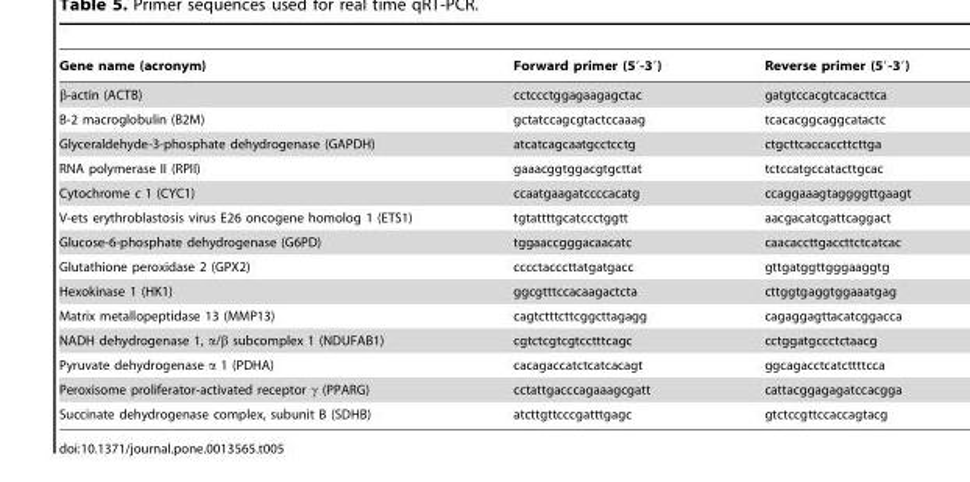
<table><thead><tr><td>Gene name (acronym)</td><td>Forward primer (5′-3′)</td><td>Reverse primer (5′-3′)</td></tr></thead><tbody><tr><td>β-actin (ACTB)</td><td>cctccctggagaagagctac</td><td>gatgtccacgtcacacttca</td></tr><tr><td>B-2 macroglobulin (B2M)</td><td>gctatccagcgtactccaaag</td><td>tcacacggcaggcatactc</td></tr><tr><td>Glyceraldehyde-3-phosphate dehydrogenase (GAPDH)</td><td>atcatcagcaatgcctcctg</td><td>ctgcttcaccaccttcttga</td></tr><tr><td>RNA polymerase II (RPII)</td><td>gaaacggtggacgtgcttat</td><td>tctccatgccatacttgcac</td></tr><tr><td>Cytochrome c 1 (CYC1)</td><td>ccaatgaagatccccacatg</td><td>ccaggaaagtaggggttgaagt</td></tr><tr><td>V-ets erythroblastosis virus E26 oncogene homolog 1 (ETS1)</td><td>tgtattttgcatccctggtt</td><td>aacgacatcgattcaggact</td></tr><tr><td>Glucose-6-phosphate dehydrogenase (G6PD)</td><td>tggaaccgggacaacatc</td><td>caacaccttgaccttctcatcac</td></tr><tr><td>Glutathione peroxidase 2 (GPX2)</td><td>cccctacccttatgatgacc</td><td>gttgatggttgggaaggtg</td></tr><tr><td>Hexokinase 1 (HK1)</td><td>ggcgtttccacaagactcta</td><td>cttggtgaggtggaaatgag</td></tr><tr><td>Matrix metallopeptidase 13 (MMP13)</td><td>cagtctttcttcggcttagagg</td><td>cagaggagttacatcggacca</td></tr><tr><td>NADH dehydrogenase 1, α/β subcomplex 1 (NDUFAB1)</td><td>cgtctcgtcgtcctttcagc</td><td>cctggatgccctctaacg</td></tr><tr><td>Pyruvate dehydrogenase α 1 (PDHA)</td><td>cacagaccatctcatcacagt</td><td>ggcagacctcatcttttcca</td></tr><tr><td>Peroxisome proliferator-activated receptor γ (PPARG)</td><td>cctattgacccagaaagcgatt</td><td>cattacggagagatccacgga</td></tr><tr><td>Succinate dehydrogenase complex, subunit B (SDHB)</td><td>atcttgttcccgatttgagc</td><td>gtctccgttccaccagtacg</td></tr></tbody></table>